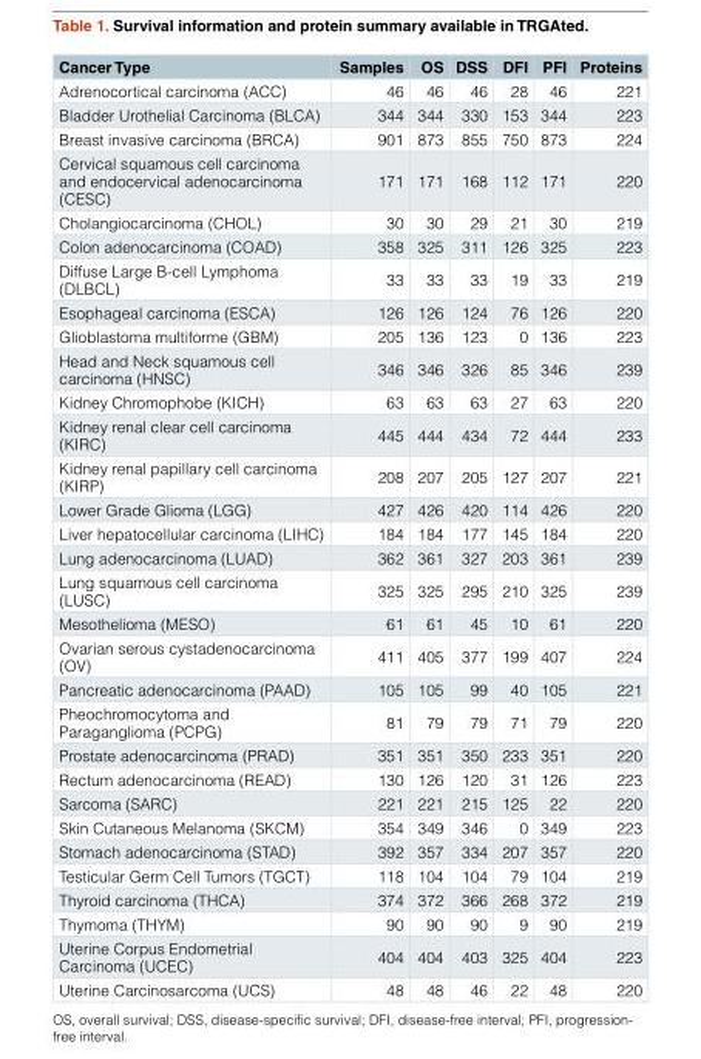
<table><thead><tr><td>Cancer Type</td><td>Samples</td><td>OS</td><td>DSS</td><td>DFI</td><td>PFI</td><td>Proteins</td></tr></thead><tbody><tr><td>Adrenocortical carcinoma (ACC)</td><td>46</td><td>46</td><td>46</td><td>28</td><td>46</td><td>221</td></tr><tr><td>Bladder Urothelial Carcinoma (BLCA)</td><td>344</td><td>344</td><td>330</td><td>153</td><td>344</td><td>223</td></tr><tr><td>Breast invasive carcinoma (BRCA)</td><td>901</td><td>873</td><td>855</td><td>750</td><td>873</td><td>224</td></tr><tr><td>Cervical squamous cell carcinoma and endocervical adenocarcinoma (CESC)</td><td>171</td><td>171</td><td>168</td><td>112</td><td>171</td><td>220</td></tr><tr><td>Cholangiocarcinoma (CHOL)</td><td>30</td><td>30</td><td>29</td><td>21</td><td>30</td><td>219</td></tr><tr><td>Colon adenocarcinoma (COAD)</td><td>358</td><td>325</td><td>311</td><td>126</td><td>325</td><td>223</td></tr><tr><td>Diffuse Large B-cell Lymphoma (DLBCL)</td><td>33</td><td>33</td><td>33</td><td>19</td><td>33</td><td>219</td></tr><tr><td>Esophageal carcinoma (ESCA)</td><td>126</td><td>126</td><td>124</td><td>76</td><td>126</td><td>220</td></tr><tr><td>Glioblastoma multiforme (GBM)</td><td>205</td><td>136</td><td>123</td><td>0</td><td>136</td><td>223</td></tr><tr><td>Head and Neck squamous cell carcinoma (HNSC)</td><td>346</td><td>346</td><td>326</td><td>85</td><td>346</td><td>239</td></tr><tr><td>Kidney Chromophobe (KICH)</td><td>63</td><td>63</td><td>63</td><td>27</td><td>63</td><td>220</td></tr><tr><td>Kidney renal clear cell carcinoma (KIRC)</td><td>445</td><td>444</td><td>434</td><td>72</td><td>444</td><td>233</td></tr><tr><td>Kidney renal papillary cell carcinoma (KIRP)</td><td>208</td><td>207</td><td>205</td><td>127</td><td>207</td><td>221</td></tr><tr><td>Lower Grade Glioma (LGG)</td><td>427</td><td>426</td><td>420</td><td>114</td><td>426</td><td>220</td></tr><tr><td>Liver hepatocellular carcinoma (LIHC)</td><td>184</td><td>184</td><td>177</td><td>145</td><td>184</td><td>220</td></tr><tr><td>Lung adenocarcinoma (LUAD)</td><td>362</td><td>361</td><td>327</td><td>203</td><td>361</td><td>239</td></tr><tr><td>Lung squamous cell carcinoma (LUSC)</td><td>325</td><td>325</td><td>295</td><td>210</td><td>325</td><td>239</td></tr><tr><td>Mesothelioma (MESO)</td><td>61</td><td>61</td><td>45</td><td>10</td><td>61</td><td>220</td></tr><tr><td>Ovarian serous cystadenocarcinoma (OV)</td><td>411</td><td>405</td><td>377</td><td>199</td><td>407</td><td>224</td></tr><tr><td>Pancreatic adenocarcinoma (PAAD)</td><td>105</td><td>105</td><td>99</td><td>40</td><td>105</td><td>221</td></tr><tr><td>Pheochromocytoma and Paraganglioma (PCPG)</td><td>81</td><td>79</td><td>79</td><td>71</td><td>79</td><td>220</td></tr><tr><td>Prostate adenocarcinoma (PRAD)</td><td>351</td><td>351</td><td>350</td><td>233</td><td>351</td><td>220</td></tr><tr><td>Rectum adenocarcinoma (READ)</td><td>130</td><td>126</td><td>120</td><td>31</td><td>126</td><td>223</td></tr><tr><td>Sarcoma (SARC)</td><td>221</td><td>221</td><td>215</td><td>125</td><td>22</td><td>220</td></tr><tr><td>Skin Cutaneous Melanoma (SKCM)</td><td>354</td><td>349</td><td>346</td><td>0</td><td>349</td><td>223</td></tr><tr><td>Stomach adenocarcinoma (STAD)</td><td>392</td><td>357</td><td>334</td><td>207</td><td>357</td><td>220</td></tr><tr><td>Testicular Germ Cell Tumors (TGCT)</td><td>118</td><td>104</td><td>104</td><td>79</td><td>104</td><td>219</td></tr><tr><td>Thyroid carcinoma (THCA)</td><td>374</td><td>372</td><td>366</td><td>268</td><td>372</td><td>219</td></tr><tr><td>Thymoma (THYM)</td><td>90</td><td>90</td><td>90</td><td>9</td><td>90</td><td>219</td></tr><tr><td>Uterine Corpus Endometrial Carcinoma (UCEC)</td><td>404</td><td>404</td><td>403</td><td>325</td><td>404</td><td>223</td></tr><tr><td>Uterine Carcinosarcoma (UCS)</td><td>48</td><td>48</td><td>46</td><td>22</td><td>48</td><td>220</td></tr></tbody></table>